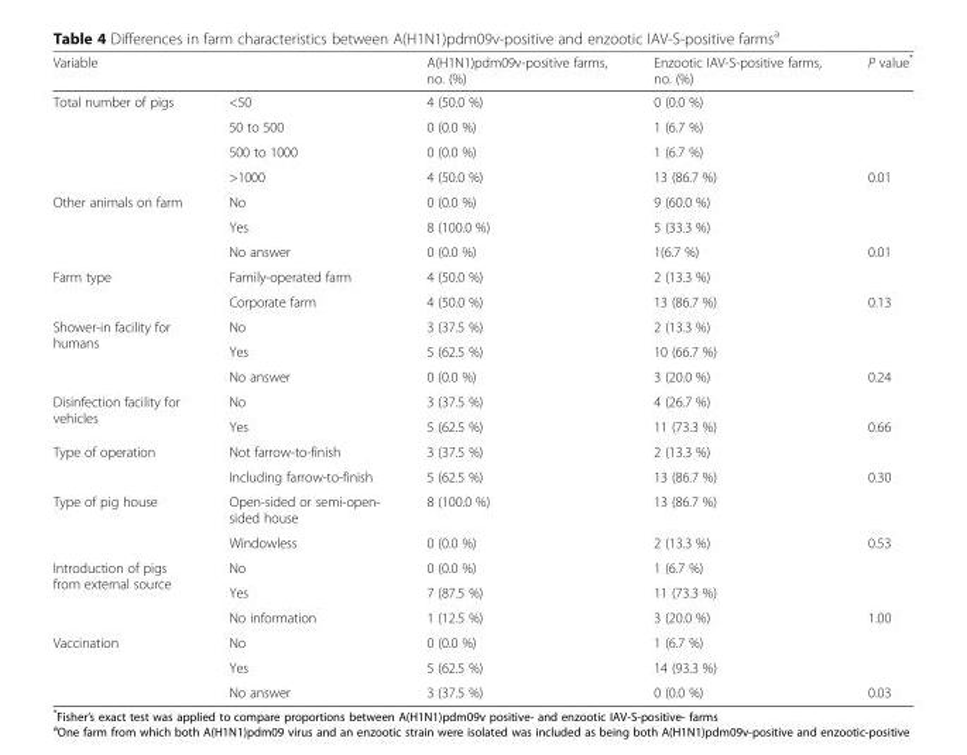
<table><thead><tr><td>Variable</td><td></td><td>A(H1N1)pdm09v-positive farms, no. (%)</td><td>Enzootic IAV-S-positive farms, no. (%)</td><td>P value*</td></tr></thead><tbody><tr><td rowspan="4">Total number of pigs</td><td>&lt;50</td><td>4 (50.0 %)</td><td>0 (0.0 %)</td><td></td></tr><tr><td>50 to 500</td><td>0 (0.0 %)</td><td>1 (6.7 %)</td><td></td></tr><tr><td>500 to 1000</td><td>0 (0.0 %)</td><td>1 (6.7 %)</td><td></td></tr><tr><td>&gt;1000</td><td>4 (50.0 %)</td><td>13 (86.7 %)</td><td>0.01</td></tr><tr><td rowspan="3">Other animals on farm</td><td>No</td><td>0 (0.0 %)</td><td>9 (60.0 %)</td><td></td></tr><tr><td>Yes</td><td>8 (100.0 %)</td><td>5 (33.3 %)</td><td></td></tr><tr><td>No answer</td><td>0 (0.0 %)</td><td>1(6.7 %)</td><td>0.01</td></tr><tr><td rowspan="2">Farm type</td><td>Family-operated farm</td><td>4 (50.0 %)</td><td>2 (13.3 %)</td><td></td></tr><tr><td>Corporate farm</td><td>4 (50.0 %)</td><td>13 (86.7 %)</td><td>0.13</td></tr><tr><td rowspan="3">Shower-in facility for humans</td><td>No</td><td>3 (37.5 %)</td><td>2 (13.3 %)</td><td></td></tr><tr><td>Yes</td><td>5 (62.5 %)</td><td>10 (66.7 %)</td><td></td></tr><tr><td>No answer</td><td>0 (0.0 %)</td><td>3 (20.0 %)</td><td>0.24</td></tr><tr><td rowspan="2">Disinfection facility for vehicles</td><td>No</td><td>3 (37.5 %)</td><td>4 (26.7 %)</td><td></td></tr><tr><td>Yes</td><td>5 (62.5 %)</td><td>11 (73.3 %)</td><td>0.66</td></tr><tr><td rowspan="2">Type of operation</td><td>Not farrow-to-finish</td><td>3 (37.5 %)</td><td>2 (13.3 %)</td><td></td></tr><tr><td>Including farrow-to-finish</td><td>5 (62.5 %)</td><td>13 (86.7 %)</td><td>0.30</td></tr><tr><td rowspan="2">Type of pig house</td><td>Open-sided or semi-open- sided house</td><td>8 (100.0 %)</td><td>13 (86.7 %)</td><td></td></tr><tr><td>Windowless</td><td>0 (0.0 %)</td><td>2 (13.3 %)</td><td>0.53</td></tr><tr><td rowspan="3">Introduction of pigs from external source</td><td>No</td><td>0 (0.0 %)</td><td>1 (6.7 %)</td><td></td></tr><tr><td>Yes</td><td>7 (87.5 %)</td><td>11 (73.3 %)</td><td></td></tr><tr><td>No information</td><td>1 (12.5 %)</td><td>3 (20.0 %)</td><td>1.00</td></tr><tr><td rowspan="3">Vaccination</td><td>No</td><td>0 (0.0 %)</td><td>1 (6.7 %)</td><td></td></tr><tr><td>Yes</td><td>5 (62.5 %)</td><td>14 (93.3 %)</td><td></td></tr><tr><td>No answer</td><td>3 (37.5 %)</td><td>0 (0.0 %)</td><td>0.03</td></tr></tbody></table>